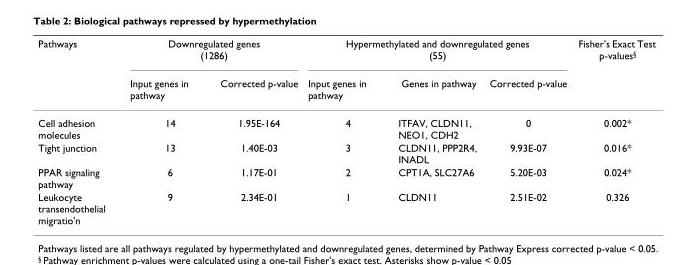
<table><thead><tr><td rowspan="2">Pathways</td><td colspan="2">Downregulated genes (1286)</td><td colspan="3">Hypermethylated and downregulated genes (55)</td><td rowspan="2">Fisher&#x27;s Exact Test p-values<sup>§</sup></td></tr><tr><td>Input genes in pathway</td><td>Corrected p-value</td><td>Input genes in pathway</td><td>Genes in pathway</td><td>Corrected p-value</td></tr></thead><tbody><tr><td>Cell adhesion molecules</td><td>14</td><td>1.95E-164</td><td>4</td><td>ITFAV, CLDN11, NEO1, CDH2</td><td>0</td><td>0.002*</td></tr><tr><td>Tight junction</td><td>13</td><td>1.40E-03</td><td>3</td><td>CLDN11, PPP2R4, INADL</td><td>9.93E-07</td><td>0.016*</td></tr><tr><td>PPAR signaling pathway</td><td>6</td><td>1.17E-01</td><td>2</td><td>CPT1A, SLC27A6</td><td>5.20E-03</td><td>0.024*</td></tr><tr><td>Leukocyte transendothelial migratio&#x27;n</td><td>9</td><td>2.34E-01</td><td>1</td><td>CLDN11</td><td>2.51E-02</td><td>0.326</td></tr></tbody></table>